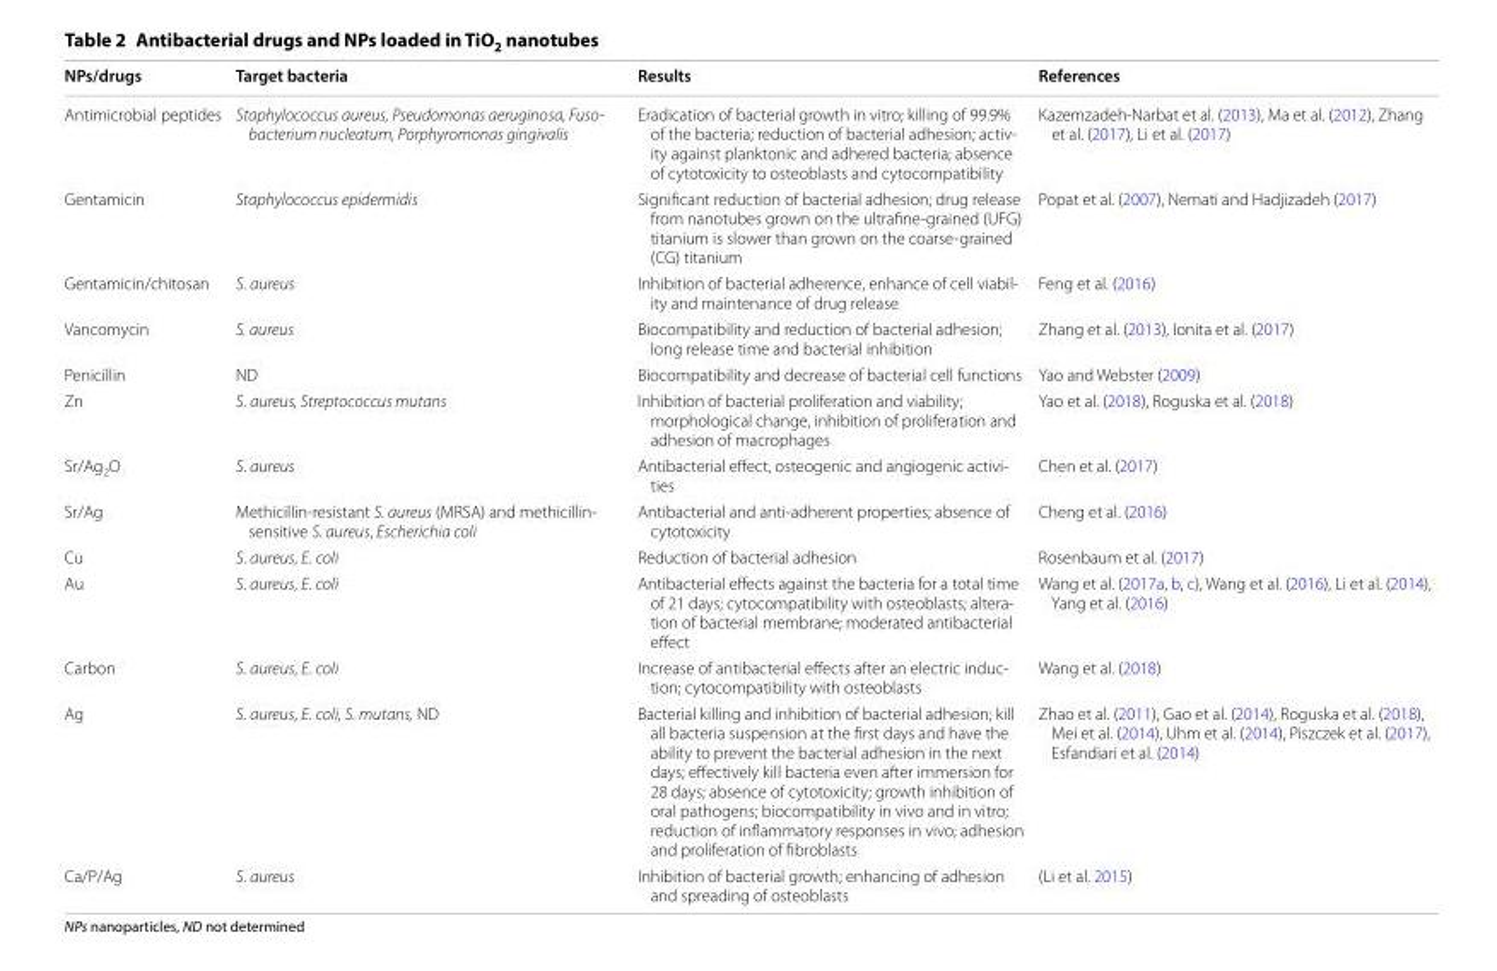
<table><thead><tr><td>NPs/drugs</td><td>Target bacteria</td><td>Results</td><td>References</td></tr></thead><tbody><tr><td>Antimicrobial peptides</td><td>Staphylococcus aureus, Pseudomonas aeruginosa, Fuso- bacterium nucleatum, Porphyromonas gingivalis</td><td>Eradication of bacterial growth in vitro; killing of 99.9% of the bacteria; reduction of bacterial adhesion; activ‑ ity against planktonic and adhered bacteria; absence of cytotoxicity to osteoblasts and cytocompatibility</td><td>Kazemzadeh‑Narbat et al. (2013), Ma et al. (2012), Zhang et al. (2017), Li et al. (2017)</td></tr><tr><td>Gentamicin</td><td>Staphylococcus epidermidis</td><td>Significant reduction of bacterial adhesion; drug release from nanotubes grown on the ultrafine‑grained (UFG) titanium is slower than grown on the coarse‑grained (CG) titanium</td><td>Popat et al. (2007), Nemati and Hadjizadeh (2017)</td></tr><tr><td>Gentamicin/chitosan</td><td>S. aureus</td><td>Inhibition of bacterial adherence, enhance of cell viabil‑ ity and maintenance of drug release</td><td>Feng et al. (2016)</td></tr><tr><td>Vancomycin</td><td>S. aureus</td><td>Biocompatibility and reduction of bacterial adhesion; long release time and bacterial inhibition</td><td>Zhang et al. (2013), Ionita et al. (2017)</td></tr><tr><td>Penicillin</td><td>ND</td><td>Biocompatibility and decrease of bacterial cell functions</td><td>Yao and Webster (2009)</td></tr><tr><td>Zn</td><td>S. aureus, Streptococcus mutans</td><td>Inhibition of bacterial proliferation and viability; morphological change, inhibition of proliferation and adhesion of macrophages</td><td>Yao et al. (2018), Roguska et al. (2018)</td></tr><tr><td>Sr/Ag<sub>2</sub>O</td><td>S. aureus</td><td>Antibacterial effect, osteogenic and angiogenic activi‑ ties</td><td>Chen et al. (2017)</td></tr><tr><td>Sr/Ag</td><td>Methicillin‑resistant S. aureus (MRSA) and methicillin‑ sensitive S. aureus, Escherichia coli</td><td>Antibacterial and anti‑adherent properties; absence of cytotoxicity</td><td>Cheng et al. (2016)</td></tr><tr><td>Cu</td><td>S. aureus, E. coli</td><td>Reduction of bacterial adhesion</td><td>Rosenbaum et al. (2017)</td></tr><tr><td>Au</td><td>S. aureus, E. coli</td><td>Antibacterial effects against the bacteria for a total time of 21 days; cytocompatibility with osteoblasts; altera‑ tion of bacterial membrane; moderated antibacterial effect</td><td>Wang et al. (2017a, b, c), Wang et al. (2016), Li et al. (2014), Yang et al. (2016)</td></tr><tr><td>Carbon</td><td>S. aureus, E. coli</td><td>Increase of antibacterial effects after an electric induc‑ tion; cytocompatibility with osteoblasts</td><td>Wang et al. (2018)</td></tr><tr><td>Ag</td><td>S. aureus, E. coli, S. mutans, ND</td><td>Bacterial killing and inhibition of bacterial adhesion; kill all bacteria suspension at the first days and have the ability to prevent the bacterial adhesion in the next days; effectively kill bacteria even after immersion for 28 days; absence of cytotoxicity; growth inhibition of oral pathogens; biocompatibility in vivo and in vitro; reduction of inflammatory responses in vivo; adhesion and proliferation of fibroblasts</td><td>Zhao et al. (2011), Gao et al. (2014), Roguska et al. (2018), Mei et al. (2014), Uhm et al. (2014), Piszczek et al. (2017), Esfandiari et al. (2014)</td></tr><tr><td>Ca/P/Ag</td><td>S. aureus</td><td>Inhibition of bacterial growth; enhancing of adhesion and spreading of osteoblasts</td><td>(Li et al. 2015)</td></tr></tbody></table>